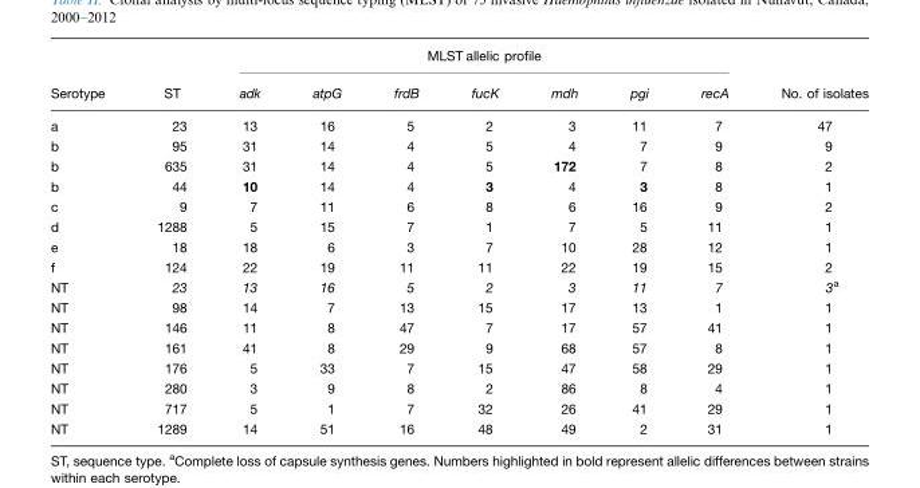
<table><thead><tr><td rowspan="2">Serotype</td><td rowspan="2">ST</td><td colspan="7">MLST allelic profile</td><td rowspan="2">No. of isolates</td></tr><tr><td>adk</td><td>atpG</td><td>frdB</td><td>fucK</td><td>mdh</td><td>pgi</td><td>recA</td></tr></thead><tbody><tr><td>a</td><td>23</td><td>13</td><td>16</td><td>5</td><td>2</td><td>3</td><td>11</td><td>7</td><td>47</td></tr><tr><td>b</td><td>95</td><td>31</td><td>14</td><td>4</td><td>5</td><td>4</td><td>7</td><td>9</td><td>9</td></tr><tr><td>b</td><td>635</td><td>31</td><td>14</td><td>4</td><td>5</td><td>172</td><td>7</td><td>8</td><td>2</td></tr><tr><td>b</td><td>44</td><td>10</td><td>14</td><td>4</td><td>3</td><td>4</td><td>3</td><td>8</td><td>1</td></tr><tr><td>c</td><td>9</td><td>7</td><td>11</td><td>6</td><td>8</td><td>6</td><td>16</td><td>9</td><td>2</td></tr><tr><td>d</td><td>1288</td><td>5</td><td>15</td><td>7</td><td>1</td><td>7</td><td>5</td><td>11</td><td>1</td></tr><tr><td>e</td><td>18</td><td>18</td><td>6</td><td>3</td><td>7</td><td>10</td><td>28</td><td>12</td><td>1</td></tr><tr><td>f</td><td>124</td><td>22</td><td>19</td><td>11</td><td>11</td><td>22</td><td>19</td><td>15</td><td>2</td></tr><tr><td>NT</td><td>23</td><td>13</td><td>16</td><td>5</td><td>2</td><td>3</td><td>11</td><td>7</td><td>3<sup>a</sup></td></tr><tr><td>NT</td><td>98</td><td>14</td><td>7</td><td>13</td><td>15</td><td>17</td><td>13</td><td>1</td><td>1</td></tr><tr><td>NT</td><td>146</td><td>11</td><td>8</td><td>47</td><td>7</td><td>17</td><td>57</td><td>41</td><td>1</td></tr><tr><td>NT</td><td>161</td><td>41</td><td>8</td><td>29</td><td>9</td><td>68</td><td>57</td><td>8</td><td>1</td></tr><tr><td>NT</td><td>176</td><td>5</td><td>33</td><td>7</td><td>15</td><td>47</td><td>58</td><td>29</td><td>1</td></tr><tr><td>NT</td><td>280</td><td>3</td><td>9</td><td>8</td><td>2</td><td>86</td><td>8</td><td>4</td><td>1</td></tr><tr><td>NT</td><td>717</td><td>5</td><td>1</td><td>7</td><td>32</td><td>26</td><td>41</td><td>29</td><td>1</td></tr><tr><td>NT</td><td>1289</td><td>14</td><td>51</td><td>16</td><td>48</td><td>49</td><td>2</td><td>31</td><td>1</td></tr></tbody></table>